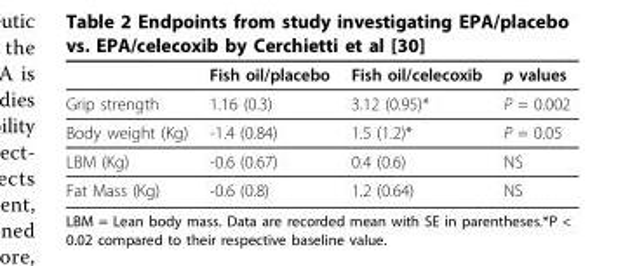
<table><thead><tr><td></td><td>Fish oil/placebo</td><td>Fish oil/celecoxib</td><td>p values</td></tr></thead><tbody><tr><td>Grip strength</td><td>1.16 (0.3)</td><td>3.12 (0.95)*</td><td>P = 0.002</td></tr><tr><td>Body weight (Kg)</td><td>-1.4 (0.84)</td><td>1.5 (1.2)*</td><td>P = 0.05</td></tr><tr><td>LBM (Kg)</td><td>-0.6 (0.67)</td><td>0.4 (0.6)</td><td>NS</td></tr><tr><td>Fat Mass (Kg)</td><td>-0.6 (0.8)</td><td>1.2 (0.64)</td><td>NS</td></tr></tbody></table>